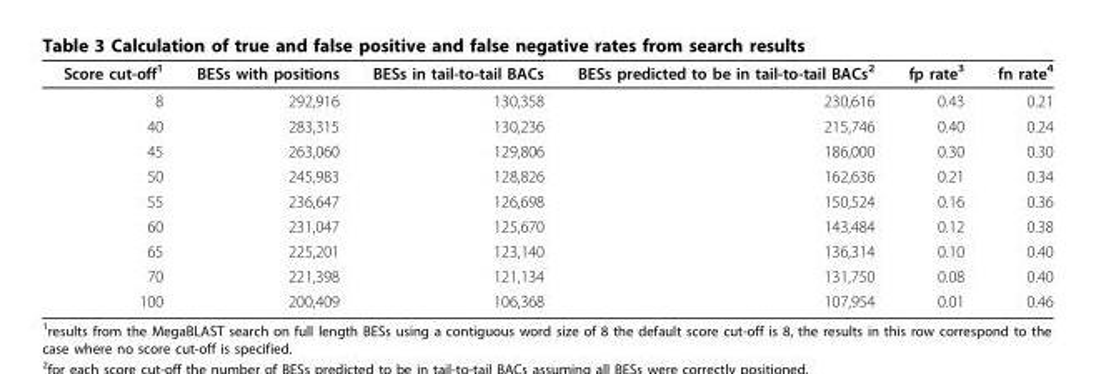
<table><thead><tr><td>Score cut-off<sup>1</sup></td><td>BESs with positions</td><td>BESs in tail-to-tail BACs</td><td>BESs predicted to be in tail-to-tail BACs<sup>2</sup></td><td>fp rate<sup>3</sup></td><td>fn rate<sup>4</sup></td></tr></thead><tbody><tr><td>8</td><td>292,916</td><td>130,358</td><td>230,616</td><td>0.43</td><td>0.21</td></tr><tr><td>40</td><td>283,315</td><td>130,236</td><td>215,746</td><td>0.40</td><td>0.24</td></tr><tr><td>45</td><td>263,060</td><td>129,806</td><td>186,000</td><td>0.30</td><td>0.30</td></tr><tr><td>50</td><td>245,983</td><td>128,826</td><td>162,636</td><td>0.21</td><td>0.34</td></tr><tr><td>55</td><td>236,647</td><td>126,698</td><td>150,524</td><td>0.16</td><td>0.36</td></tr><tr><td>60</td><td>231,047</td><td>125,670</td><td>143,484</td><td>0.12</td><td>0.38</td></tr><tr><td>65</td><td>225,201</td><td>123,140</td><td>136,314</td><td>0.10</td><td>0.40</td></tr><tr><td>70</td><td>221,398</td><td>121,134</td><td>131,750</td><td>0.08</td><td>0.40</td></tr><tr><td>100</td><td>200,409</td><td>106,368</td><td>107,954</td><td>0.01</td><td>0.46</td></tr></tbody></table>